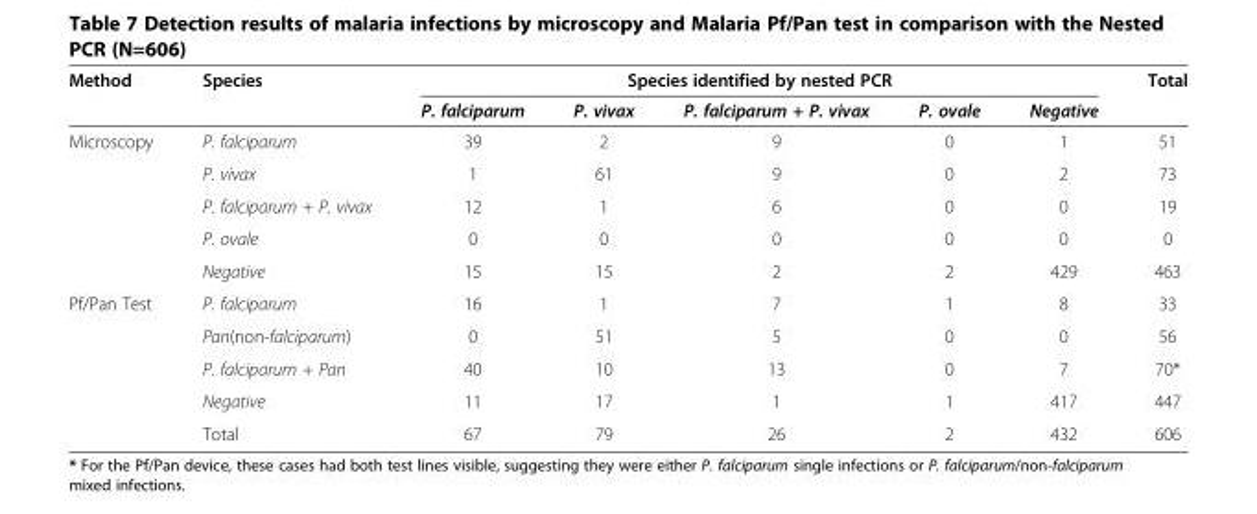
<table><thead><tr><td rowspan="2">Method</td><td rowspan="2">Species</td><td colspan="5">Species identified by nested PCR</td><td rowspan="2">Total</td></tr><tr><td>P. falciparum</td><td>P. vivax</td><td>P. falciparum + P. vivax</td><td>P. ovale</td><td>Negative</td></tr></thead><tbody><tr><td rowspan="5">Microscopy</td><td>P. falciparum</td><td>39</td><td>2</td><td>9</td><td>0</td><td>1</td><td>51</td></tr><tr><td>P. vivax</td><td>1</td><td>61</td><td>9</td><td>0</td><td>2</td><td>73</td></tr><tr><td>P. falciparum + P. vivax</td><td>12</td><td>1</td><td>6</td><td>0</td><td>0</td><td>19</td></tr><tr><td>P. ovale</td><td>0</td><td>0</td><td>0</td><td>0</td><td>0</td><td>0</td></tr><tr><td>Negative</td><td>15</td><td>15</td><td>2</td><td>2</td><td>429</td><td>463</td></tr><tr><td rowspan="5">Pf/Pan Test</td><td>P. falciparum</td><td>16</td><td>1</td><td>7</td><td>1</td><td>8</td><td>33</td></tr><tr><td>Pan(non-falciparum)</td><td>0</td><td>51</td><td>5</td><td>0</td><td>0</td><td>56</td></tr><tr><td>P. falciparum + Pan</td><td>40</td><td>10</td><td>13</td><td>0</td><td>7</td><td>70*</td></tr><tr><td>Negative</td><td>11</td><td>17</td><td>1</td><td>1</td><td>417</td><td>447</td></tr><tr><td>Total</td><td>67</td><td>79</td><td>26</td><td>2</td><td>432</td><td>606</td></tr></tbody></table>